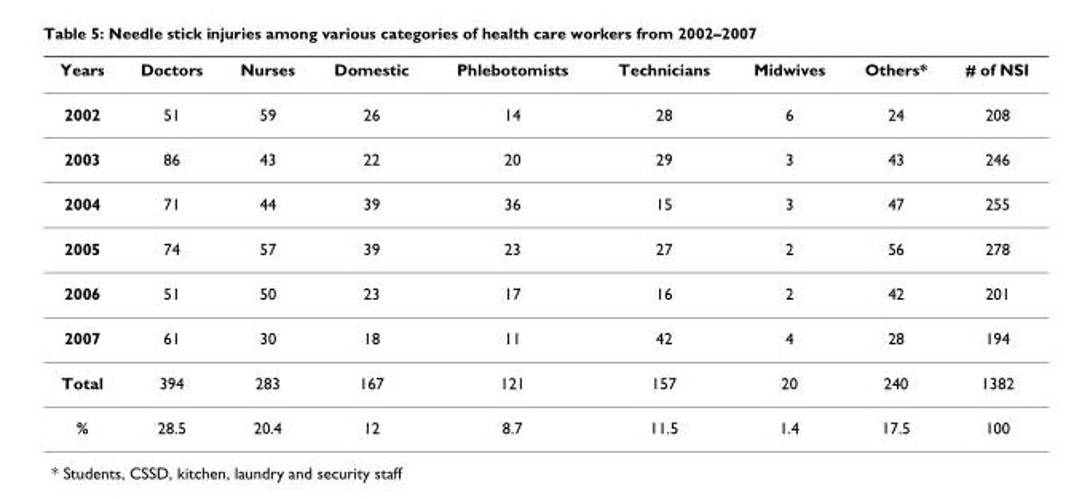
<table><thead><tr><td>Years</td><td>Doctors</td><td>Nurses</td><td>Domestic</td><td>Phlebotomists</td><td>Technicians</td><td>Midwives</td><td>Others*</td><td># of NSI</td></tr></thead><tbody><tr><td>2002</td><td>51</td><td>59</td><td>26</td><td>14</td><td>28</td><td>6</td><td>24</td><td>208</td></tr><tr><td>2003</td><td>86</td><td>43</td><td>22</td><td>20</td><td>29</td><td>3</td><td>43</td><td>246</td></tr><tr><td>2004</td><td>71</td><td>44</td><td>39</td><td>36</td><td>15</td><td>3</td><td>47</td><td>255</td></tr><tr><td>2005</td><td>74</td><td>57</td><td>39</td><td>23</td><td>27</td><td>2</td><td>56</td><td>278</td></tr><tr><td>2006</td><td>51</td><td>50</td><td>23</td><td>17</td><td>16</td><td>2</td><td>42</td><td>201</td></tr><tr><td>2007</td><td>61</td><td>30</td><td>18</td><td>11</td><td>42</td><td>4</td><td>28</td><td>194</td></tr><tr><td>Total</td><td>394</td><td>283</td><td>167</td><td>121</td><td>157</td><td>20</td><td>240</td><td>1382</td></tr><tr><td>%</td><td>28.5</td><td>20.4</td><td>12</td><td>8.7</td><td>11.5</td><td>1.4</td><td>17.5</td><td>100</td></tr></tbody></table>